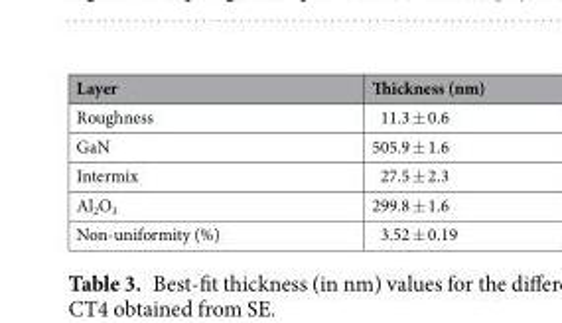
<table><thead><tr><td>Layer</td><td>Thickness (nm)</td></tr></thead><tbody><tr><td>Roughness</td><td>11.3 ± 0.6</td></tr><tr><td>GaN</td><td>505.9 ± 1.6</td></tr><tr><td>Intermix</td><td>27.5 ± 2.3</td></tr><tr><td>Al<sub>2</sub>O<sub>3</sub></td><td>299.8 ± 1.6</td></tr><tr><td>Non-uniformity (%)</td><td>3.52 ± 0.19</td></tr></tbody></table>